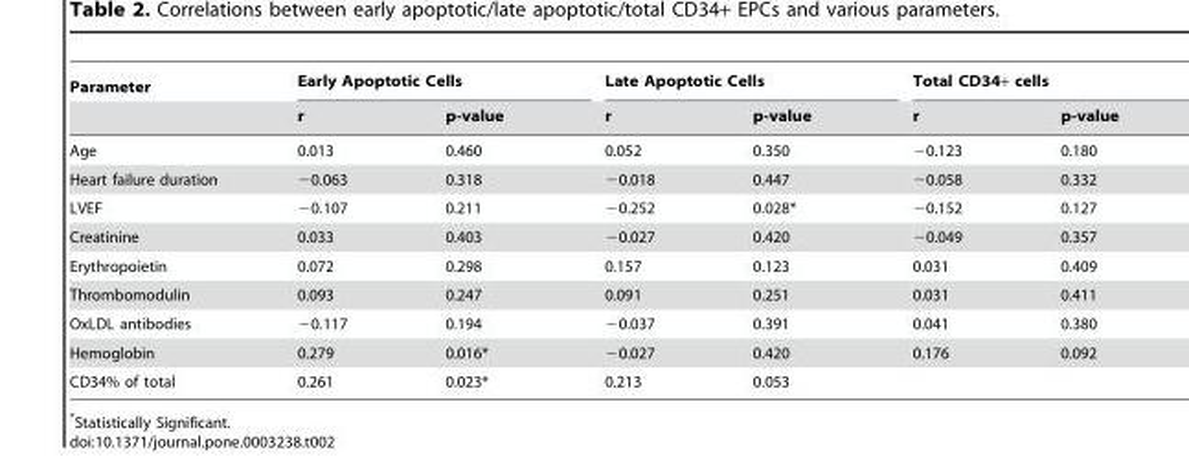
<table><thead><tr><td rowspan="2">Parameter</td><td colspan="2">Early Apoptotic Cells</td><td colspan="2">Late Apoptotic Cells</td><td colspan="2">Total CD34+ cells</td></tr><tr><td>r</td><td>p-value</td><td>r</td><td>p-value</td><td>r</td><td>p-value</td></tr></thead><tbody><tr><td>Age</td><td>0.013</td><td>0.460</td><td>0.052</td><td>0.350</td><td>−0.123</td><td>0.180</td></tr><tr><td>Heart failure duration</td><td>−0.063</td><td>0.318</td><td>−0.018</td><td>0.447</td><td>−0.058</td><td>0.332</td></tr><tr><td>LVEF</td><td>−0.107</td><td>0.211</td><td>−0.252</td><td>0.028*</td><td>−0.152</td><td>0.127</td></tr><tr><td>Creatinine</td><td>0.033</td><td>0.403</td><td>−0.027</td><td>0.420</td><td>−0.049</td><td>0.357</td></tr><tr><td>Erythropoietin</td><td>0.072</td><td>0.298</td><td>0.157</td><td>0.123</td><td>0.031</td><td>0.409</td></tr><tr><td>Thrombomodulin</td><td>0.093</td><td>0.247</td><td>0.091</td><td>0.251</td><td>0.031</td><td>0.411</td></tr><tr><td>OxLDL antibodies</td><td>−0.117</td><td>0.194</td><td>−0.037</td><td>0.391</td><td>0.041</td><td>0.380</td></tr><tr><td>Hemoglobin</td><td>0.279</td><td>0.016*</td><td>−0.027</td><td>0.420</td><td>0.176</td><td>0.092</td></tr><tr><td>CD34% of total</td><td>0.261</td><td>0.023*</td><td>0.213</td><td>0.053</td><td></td><td></td></tr></tbody></table>